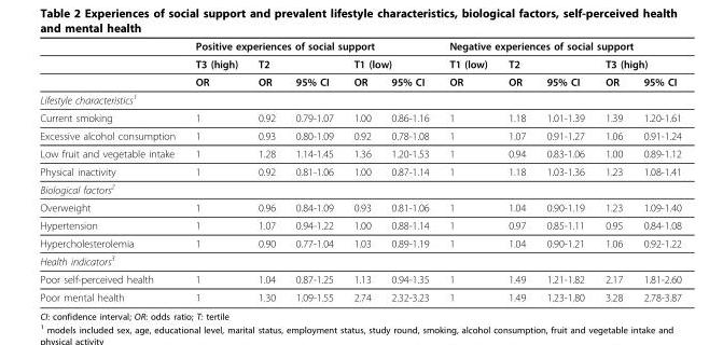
<table><thead><tr><td rowspan="3"></td><td colspan="5">Positive experiences of social support</td><td colspan="5">Negative experiences of social support</td></tr><tr><td rowspan="2">T3 (high) OR</td><td colspan="2">T2</td><td colspan="2">T1 (low)</td><td rowspan="2">T1 (low) OR</td><td colspan="2">T2</td><td colspan="2">T3 (high)</td></tr><tr><td>OR</td><td>95% CI</td><td>OR</td><td>95% CI</td><td>OR</td><td>95% CI</td><td>OR</td><td>95% CI</td></tr></thead><tbody><tr><td colspan="11">Lifestyle characteristics<sup>1</sup></td></tr><tr><td>Current smoking</td><td>1</td><td>0.92</td><td>0.79-1.07</td><td>1.00</td><td>0.86-1.16</td><td>1</td><td>1.18</td><td>1.01-1.39</td><td>1.39</td><td>1.20-1.61</td></tr><tr><td>Excessive alcohol consumption</td><td>1</td><td>0.93</td><td>0.80-1.09</td><td>0.92</td><td>0.78-1.08</td><td>1</td><td>1.07</td><td>0.91-1.27</td><td>1.06</td><td>0.91-1.24</td></tr><tr><td>Low fruit and vegetable intake</td><td>1</td><td>1.28</td><td>1.14-1.45</td><td>1.36</td><td>1.20-1.53</td><td>1</td><td>0.94</td><td>0.83-1.06</td><td>1.00</td><td>0.89-1.12</td></tr><tr><td>Physical inactivity</td><td>1</td><td>0.92</td><td>0.81-1.06</td><td>1.00</td><td>0.87-1.14</td><td>1</td><td>1.18</td><td>1.03-1.36</td><td>1.23</td><td>1.08-1.41</td></tr><tr><td colspan="11">Biological factors<sup>2</sup></td></tr><tr><td>Overweight</td><td>1</td><td>0.96</td><td>0.84-1.09</td><td>0.93</td><td>0.81-1.06</td><td>1</td><td>1.04</td><td>0.90-1.19</td><td>1.23</td><td>1.09-1.40</td></tr><tr><td>Hypertension</td><td>1</td><td>1.07</td><td>0.94-1.22</td><td>1.00</td><td>0.88-1.14</td><td>1</td><td>0.97</td><td>0.85-1.11</td><td>0.95</td><td>0.84-1.08</td></tr><tr><td>Hypercholesterolemia</td><td>1</td><td>0.90</td><td>0.77-1.04</td><td>1.03</td><td>0.89-1.19</td><td>1</td><td>1.04</td><td>0.90-1.21</td><td>1.06</td><td>0.92-1.22</td></tr><tr><td colspan="11">Health indicators<sup>3</sup></td></tr><tr><td>Poor self-perceived health</td><td>1</td><td>1.04</td><td>0.87-1.25</td><td>1.13</td><td>0.94-1.35</td><td>1</td><td>1.49</td><td>1.21-1.82</td><td>2.17</td><td>1.81-2.60</td></tr><tr><td>Poor mental health</td><td>1</td><td>1.30</td><td>1.09-1.55</td><td>2.74</td><td>2.32-3.23</td><td>1</td><td>1.49</td><td>1.23-1.80</td><td>3.28</td><td>2.78-3.87</td></tr></tbody></table>